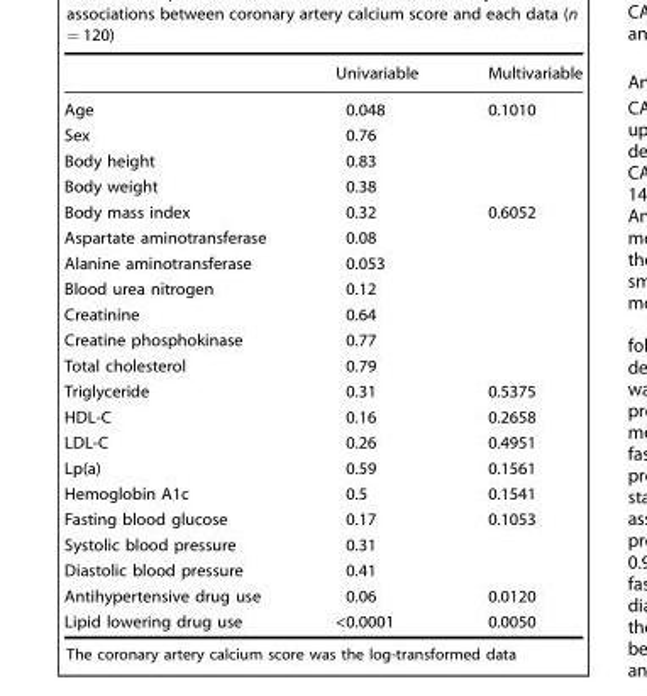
<table><thead><tr><td></td><td>Univariable</td><td>Multivariable</td></tr></thead><tbody><tr><td>Age</td><td>0.048</td><td>0.1010</td></tr><tr><td>Sex</td><td>0.76</td><td></td></tr><tr><td>Body height</td><td>0.83</td><td></td></tr><tr><td>Body weight</td><td>0.38</td><td></td></tr><tr><td>Body mass index</td><td>0.32</td><td>0.6052</td></tr><tr><td>Aspartate aminotransferase</td><td>0.08</td><td></td></tr><tr><td>Alanine aminotransferase</td><td>0.053</td><td></td></tr><tr><td>Blood urea nitrogen</td><td>0.12</td><td></td></tr><tr><td>Creatinine</td><td>0.64</td><td></td></tr><tr><td>Creatine phosphokinase</td><td>0.77</td><td></td></tr><tr><td>Total cholesterol</td><td>0.79</td><td></td></tr><tr><td>Triglyceride</td><td>0.31</td><td>0.5375</td></tr><tr><td>HDL-C</td><td>0.16</td><td>0.2658</td></tr><tr><td>LDL-C</td><td>0.26</td><td>0.4951</td></tr><tr><td>Lp(a)</td><td>0.59</td><td>0.1561</td></tr><tr><td>Hemoglobin A1c</td><td>0.5</td><td>0.1541</td></tr><tr><td>Fasting blood glucose</td><td>0.17</td><td>0.1053</td></tr><tr><td>Systolic blood pressure</td><td>0.31</td><td></td></tr><tr><td>Diastolic blood pressure</td><td>0.41</td><td></td></tr><tr><td>Antihypertensive drug use</td><td>0.06</td><td>0.0120</td></tr><tr><td>Lipid lowering drug use</td><td>&lt;0.0001</td><td>0.0050</td></tr></tbody></table>